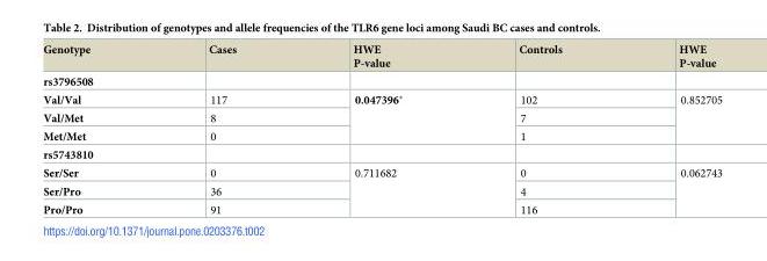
<table><thead><tr><td>Genotype</td><td>Cases</td><td>HWE P-value</td><td>Controls</td><td>HWE P-value</td></tr></thead><tbody><tr><td colspan="5">rs3796508</td></tr><tr><td>Val/Val</td><td>117</td><td rowspan="3">0.047396*</td><td>102</td><td rowspan="3">0.852705</td></tr><tr><td>Val/Met</td><td>8</td><td>7</td></tr><tr><td>Met/Met</td><td>0</td><td>1</td></tr><tr><td colspan="5">rs5743810</td></tr><tr><td>Ser/Ser</td><td>0</td><td rowspan="3">0.711682</td><td>0</td><td rowspan="3">0.062743</td></tr><tr><td>Ser/Pro</td><td>36</td><td>4</td></tr><tr><td>Pro/Pro</td><td>91</td><td>116</td></tr></tbody></table>